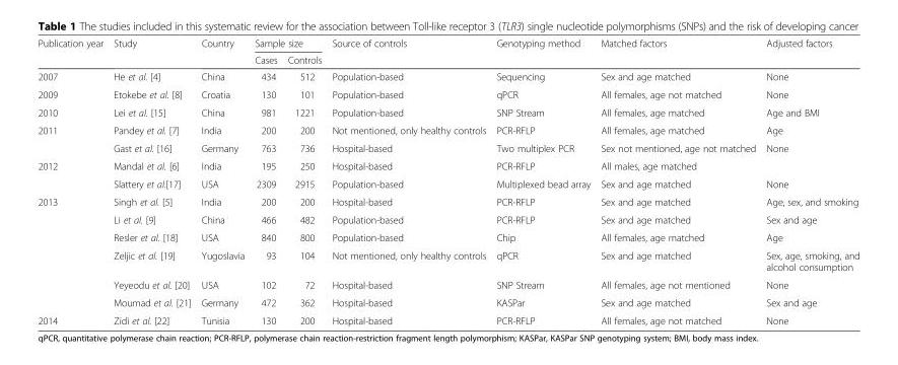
<table><thead><tr><td rowspan="2">Publication year</td><td rowspan="2">Study</td><td rowspan="2">Country</td><td colspan="2">Sample size</td><td rowspan="2">Source of controls</td><td rowspan="2">Genotyping method</td><td rowspan="2">Matched factors</td><td rowspan="2">Adjusted factors</td></tr><tr><td>Cases</td><td>Controls</td></tr></thead><tbody><tr><td>2007</td><td>He et al. [4]</td><td>China</td><td>434</td><td>512</td><td>Population-based</td><td>Sequencing</td><td>Sex and age matched</td><td>None</td></tr><tr><td>2009</td><td>Etokebe et al. [8]</td><td>Croatia</td><td>130</td><td>101</td><td>Population-based</td><td>qPCR</td><td>All females, age not matched</td><td>None</td></tr><tr><td>2010</td><td>Lei et al. [15]</td><td>China</td><td>981</td><td>1221</td><td>Population-based</td><td>SNP Stream</td><td>All females, age matched</td><td>Age and BMI</td></tr><tr><td rowspan="2">2011</td><td>Pandey et al. [7]</td><td>India</td><td>200</td><td>200</td><td>Not mentioned, only healthy controls</td><td>PCR-RFLP</td><td>All females, age matched</td><td>Age</td></tr><tr><td>Gast et al. [16]</td><td>Germany</td><td>763</td><td>736</td><td>Hospital-based</td><td>Two multiplex PCR</td><td>Sex not mentioned, age not matched</td><td>None</td></tr><tr><td rowspan="2">2012</td><td>Mandal et al. [6]</td><td>India</td><td>195</td><td>250</td><td>Hospital-based</td><td>PCR-RFLP</td><td>All males, age matched</td><td></td></tr><tr><td>Slattery et al.[17]</td><td>USA</td><td>2309</td><td>2915</td><td>Population-based</td><td>Multiplexed bead array</td><td>Sex and age matched</td><td>None</td></tr><tr><td rowspan="6">2013</td><td>Singh et al. [5]</td><td>India</td><td>200</td><td>200</td><td>Hospital-based</td><td>PCR-RFLP</td><td>Sex and age matched</td><td>Age, sex, and smoking</td></tr><tr><td>Li et al. [9]</td><td>China</td><td>466</td><td>482</td><td>Population-based</td><td>PCR-RFLP</td><td>Sex and age matched</td><td>Sex and age</td></tr><tr><td>Resler et al. [18]</td><td>USA</td><td>840</td><td>800</td><td>Population-based</td><td>Chip</td><td>All females, age matched</td><td>Age</td></tr><tr><td>Zeljic et al. [19]</td><td>Yugoslavia</td><td>93</td><td>104</td><td>Not mentioned, only healthy controls</td><td>qPCR</td><td>Sex and age matched</td><td>Sex, age, smoking, and alcohol consumption</td></tr><tr><td>Yeyeodu et al. [20]</td><td>USA</td><td>102</td><td>72</td><td>Hospital-based</td><td>SNP Stream</td><td>All females, age not mentioned</td><td>None</td></tr><tr><td>Moumad et al. [21]</td><td>Germany</td><td>472</td><td>362</td><td>Hospital-based</td><td>KASPar</td><td>Sex and age matched</td><td>Sex and age</td></tr><tr><td>2014</td><td>Zidi et al. [22]</td><td>Tunisia</td><td>130</td><td>200</td><td>Hospital-based</td><td>PCR-RFLP</td><td>All females, age not matched</td><td>None</td></tr></tbody></table>